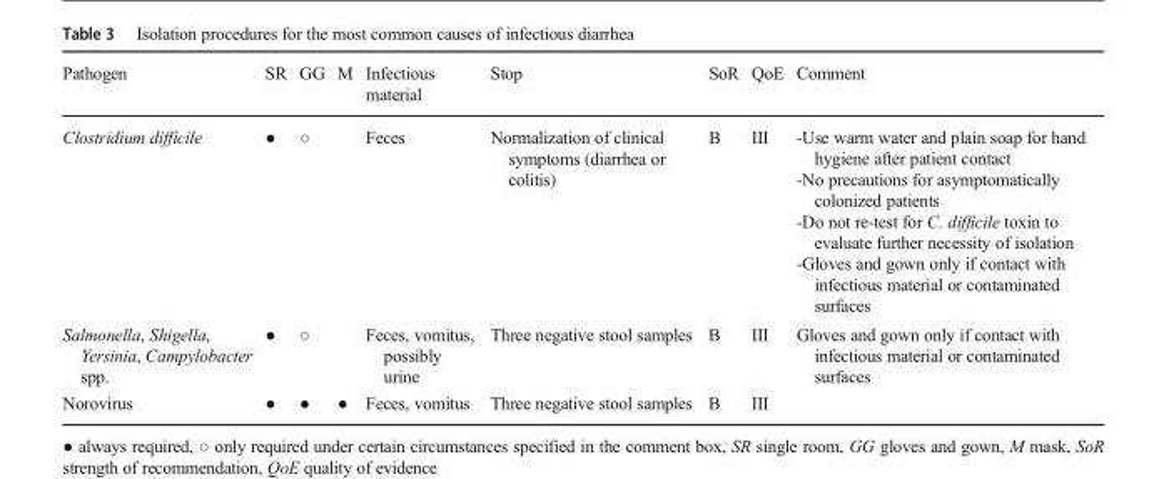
<table><thead><tr><td>Pathogen</td><td>SR</td><td>GG</td><td>M</td><td>Infectious material</td><td>Stop</td><td>SoR</td><td>QoE</td><td>Comment</td></tr></thead><tbody><tr><td>Clostridium difficile</td><td>●</td><td>○</td><td></td><td>Feces</td><td>Normalization of clinical symptoms (diarrhea or colitis)</td><td>B</td><td>III</td><td>-Use warm water and plain soap for hand hygiene after patient contact -No precautions for asymptomatically colonized patients -Do not re-test for C. difficile toxin to evaluate further necessity of isolation -Gloves and gown only if contact with infectious material or contaminated surfaces</td></tr><tr><td>Salmonella, Shigella, Yersinia, Campylobacter spp.</td><td>●</td><td>○</td><td></td><td>Feces, vomitus, possibly urine</td><td>Three negative stool samples</td><td>B</td><td>III</td><td>Gloves and gown only if contact with infectious material or contaminated surfaces</td></tr><tr><td>Norovirus</td><td>●</td><td>●</td><td>●</td><td>Feces, vomitus</td><td>Three negative stool samples</td><td>B</td><td>III</td><td></td></tr></tbody></table>